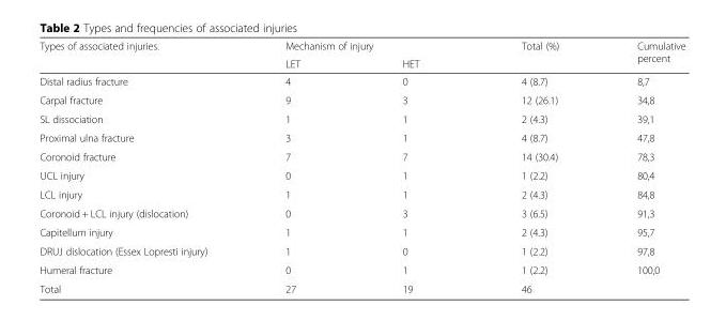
<table><thead><tr><td rowspan="2">Types of associated injuries.</td><td colspan="2">Mechanism of injury</td><td rowspan="2">Total (%)</td><td rowspan="2">Cumulative percent</td></tr><tr><td>LET</td><td>HET</td></tr></thead><tbody><tr><td>Distal radius fracture</td><td>4</td><td>0</td><td>4 (8.7)</td><td>8,7</td></tr><tr><td>Carpal fracture</td><td>9</td><td>3</td><td>12 (26.1)</td><td>34,8</td></tr><tr><td>SL dissociation</td><td>1</td><td>1</td><td>2 (4.3)</td><td>39,1</td></tr><tr><td>Proximal ulna fracture</td><td>3</td><td>1</td><td>4 (8.7)</td><td>47,8</td></tr><tr><td>Coronoid fracture</td><td>7</td><td>7</td><td>14 (30.4)</td><td>78,3</td></tr><tr><td>UCL injury</td><td>0</td><td>1</td><td>1 (2.2)</td><td>80,4</td></tr><tr><td>LCL injury</td><td>1</td><td>1</td><td>2 (4.3)</td><td>84,8</td></tr><tr><td>Coronoid + LCL injury (dislocation)</td><td>0</td><td>3</td><td>3 (6.5)</td><td>91,3</td></tr><tr><td>Capitellum injury</td><td>1</td><td>1</td><td>2 (4.3)</td><td>95,7</td></tr><tr><td>DRUJ dislocation (Essex Lopresti injury)</td><td>1</td><td>0</td><td>1 (2.2)</td><td>97,8</td></tr><tr><td>Humeral fracture</td><td>0</td><td>1</td><td>1 (2.2)</td><td>100,0</td></tr><tr><td>Total</td><td>27</td><td>19</td><td>46</td><td></td></tr></tbody></table>